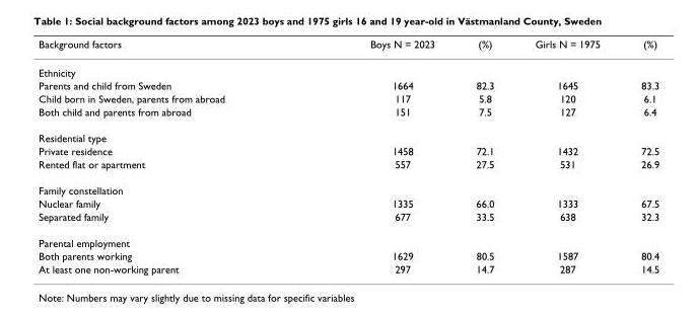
<table><thead><tr><td>Background factors</td><td>Boys N = 2023</td><td>(%)</td><td>Girls N = 1975</td><td>(%)</td></tr></thead><tbody><tr><td colspan="5">Ethnicity</td></tr><tr><td>Parents and child from Sweden</td><td>1664</td><td>82.3</td><td>1645</td><td>83.3</td></tr><tr><td>Child born in Sweden, parents from abroad</td><td>117</td><td>5.8</td><td>120</td><td>6.1</td></tr><tr><td>Both child and parents from abroad</td><td>151</td><td>7.5</td><td>127</td><td>6.4</td></tr><tr><td colspan="5">Residential type</td></tr><tr><td>Private residence</td><td>1458</td><td>72.1</td><td>1432</td><td>72.5</td></tr><tr><td>Rented flat or apartment</td><td>557</td><td>27.5</td><td>531</td><td>26.9</td></tr><tr><td colspan="5">Family constellation</td></tr><tr><td>Nuclear family</td><td>1335</td><td>66.0</td><td>1333</td><td>67.5</td></tr><tr><td>Separated family</td><td>677</td><td>33.5</td><td>638</td><td>32.3</td></tr><tr><td colspan="5">Parental employment</td></tr><tr><td>Both parents working</td><td>1629</td><td>80.5</td><td>1587</td><td>80.4</td></tr><tr><td>At least one non-working parent</td><td>297</td><td>14.7</td><td>287</td><td>14.5</td></tr></tbody></table>